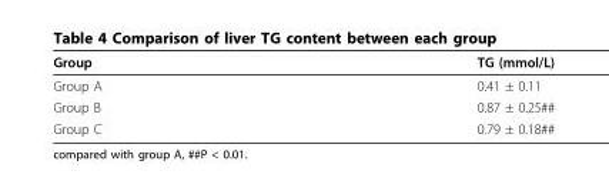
<table><thead><tr><td>Group</td><td>TG (mmol/L)</td></tr></thead><tbody><tr><td>Group A</td><td>0.41 ± 0.11</td></tr><tr><td>Group B</td><td>0.87 ± 0.25##</td></tr><tr><td>Group C</td><td>0.79 ± 0.18##</td></tr></tbody></table>